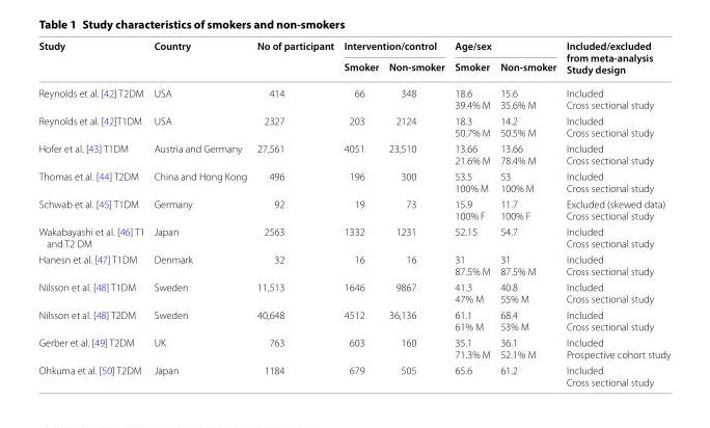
<table><thead><tr><td rowspan="2">Study</td><td rowspan="2">Country</td><td rowspan="2">No of participant</td><td colspan="2">Intervention/control</td><td colspan="2">Age/sex</td><td rowspan="2">Included/excluded from meta‑analysis Study design</td></tr><tr><td>Smoker</td><td>Non‑smoker</td><td>Smoker</td><td>Non‑smoker</td></tr></thead><tbody><tr><td>Reynolds et al. [42] T2DM</td><td>USA</td><td>414</td><td>66</td><td>348</td><td>18.6 39.4% M</td><td>15.6 35.6% M</td><td>Included Cross sectional study</td></tr><tr><td>Reynolds et al. [42]T1DM</td><td>USA</td><td>2327</td><td>203</td><td>2124</td><td>18.3 50.7% M</td><td>14.2 50.5% M</td><td>Included Cross sectional study</td></tr><tr><td>Hofer et al. [43] T1DM</td><td>Austria and Germany</td><td>27,561</td><td>4051</td><td>23,510</td><td>13.66 21.6% M</td><td>13.66 78.4% M</td><td>Included Cross sectional study</td></tr><tr><td>Thomas et al. [44] T2DM</td><td>China and Hong Kong</td><td>496</td><td>196</td><td>300</td><td>53.5 100% M</td><td>53 100% M</td><td>Included Cross sectional study</td></tr><tr><td>Schwab et al. [45] T1DM</td><td>Germany</td><td>92</td><td>19</td><td>73</td><td>15.9 100% F</td><td>11.7 100% F</td><td>Excluded (skewed data) Cross sectional study</td></tr><tr><td>Wakabayashi et al. [46] T1 and T2 DM</td><td>Japan</td><td>2563</td><td>1332</td><td>1231</td><td>52.15</td><td>54.7</td><td>Included Cross sectional study</td></tr><tr><td>Hanesn et al. [47] T1DM</td><td>Denmark</td><td>32</td><td>16</td><td>16</td><td>31 87.5% M</td><td>31 87.5% M</td><td>Included Cross sectional study</td></tr><tr><td>Nilsson et al. [48] T1DM</td><td>Sweden</td><td>11,513</td><td>1646</td><td>9867</td><td>41.3 47% M</td><td>40.8 55% M</td><td>Included Cross sectional study</td></tr><tr><td>Nilsson et al. [48] T2DM</td><td>Sweden</td><td>40,648</td><td>4512</td><td>36,136</td><td>61.1 61% M</td><td>68.4 53% M</td><td>Included Cross sectional study</td></tr><tr><td>Gerber et al. [49] T2DM</td><td>UK</td><td>763</td><td>603</td><td>160</td><td>35.1 71.3% M</td><td>36.1 52.1% M</td><td>Included Prospective cohort study</td></tr><tr><td>Ohkuma et al. [50] T2DM</td><td>Japan</td><td>1184</td><td>679</td><td>505</td><td>65.6</td><td>61.2</td><td>Included Cross sectional study</td></tr></tbody></table>